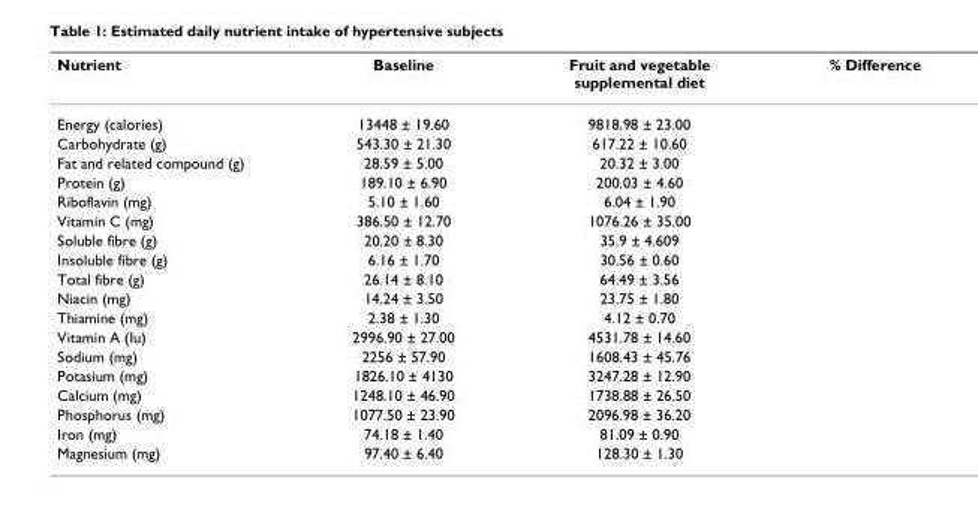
<table><thead><tr><td>Nutrient</td><td>Baseline</td><td>Fruit and vegetable supplemental diet</td><td>% Difference</td></tr></thead><tbody><tr><td>Energy (calories)</td><td>13448 ± 19.60</td><td>9818.98 ± 23.00</td><td></td></tr><tr><td>Carbohydrate (g)</td><td>543.30 ± 21.30</td><td>617.22 ± 10.60</td><td></td></tr><tr><td>Fat and related compound (g)</td><td>28.59 ± 5.00</td><td>20.32 ± 3.00</td><td></td></tr><tr><td>Protein (g)</td><td>189.10 ± 6.90</td><td>200.03 ± 4.60</td><td></td></tr><tr><td>Riboflavin (mg)</td><td>5.10 ± 1.60</td><td>6.04 ± 1.90</td><td></td></tr><tr><td>Vitamin C (mg)</td><td>386.50 ± 12.70</td><td>1076.26 ± 35.00</td><td></td></tr><tr><td>Soluble fibre (g)</td><td>20.20 ± 8.30</td><td>35.9 ± 4.609</td><td></td></tr><tr><td>Insoluble fibre (g)</td><td>6.16 ± 1.70</td><td>30.56 ± 0.60</td><td></td></tr><tr><td>Total fibre (g)</td><td>26.14 ± 8.10</td><td>64.49 ± 3.56</td><td></td></tr><tr><td>Niacin (mg)</td><td>14.24 ± 3.50</td><td>23.75 ± 1.80</td><td></td></tr><tr><td>Thiamine (mg)</td><td>2.38 ± 1.30</td><td>4.12 ± 0.70</td><td></td></tr><tr><td>Vitamin A (Iu)</td><td>2996.90 ± 27.00</td><td>4531.78 ± 14.60</td><td></td></tr><tr><td>Sodium (mg)</td><td>2256 ± 57.90</td><td>1608.43 ± 45.76</td><td></td></tr><tr><td>Potasium (mg)</td><td>1826.10 ± 4130</td><td>3247.28 ± 12.90</td><td></td></tr><tr><td>Calcium (mg)</td><td>1248.10 ± 46.90</td><td>1738.88 ± 26.50</td><td></td></tr><tr><td>Phosphorus (mg)</td><td>1077.50 ± 23.90</td><td>2096.98 ± 36.20</td><td></td></tr><tr><td>Iron (mg)</td><td>74.18 ± 1.40</td><td>81.09 ± 0.90</td><td></td></tr><tr><td>Magnesium (mg)</td><td>97.40 ± 6.40</td><td>128.30 ± 1.30</td><td></td></tr></tbody></table>